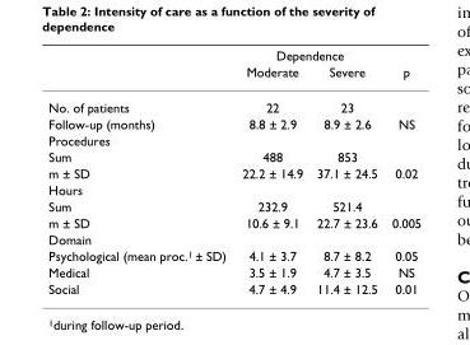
<table><thead><tr><td rowspan="2"></td><td colspan="2">Dependence</td><td rowspan="2">p</td></tr><tr><td>Moderate</td><td>Severe</td></tr></thead><tbody><tr><td>No. of patients</td><td>22</td><td>23</td><td></td></tr><tr><td>Follow-up (months)</td><td>8.8 ± 2.9</td><td>8.9 ± 2.6</td><td>NS</td></tr><tr><td colspan="4">Procedures</td></tr><tr><td>Sum</td><td>488</td><td>853</td><td></td></tr><tr><td>m ± SD</td><td>22.2 ± 14.9</td><td>37.1 ± 24.5</td><td>0.02</td></tr><tr><td colspan="4">Hours</td></tr><tr><td>Sum</td><td>232.9</td><td>521.4</td><td></td></tr><tr><td>m ± SD</td><td>10.6 ± 9.1</td><td>22.7 ± 23.6</td><td>0.005</td></tr><tr><td colspan="4">Domain</td></tr><tr><td>Psychological (mean proc.<sup>1</sup> ± SD)</td><td>4.1 ± 3.7</td><td>8.7 ± 8.2</td><td>0.05</td></tr><tr><td>Medical</td><td>3.5 ± 1.9</td><td>4.7 ± 3.5</td><td>NS</td></tr><tr><td>Social</td><td>4.7 ± 4.9</td><td>11.4 ± 12.5</td><td>0.01</td></tr></tbody></table>